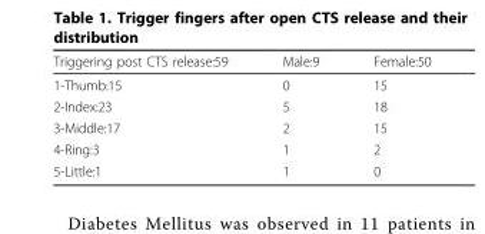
<table><thead><tr><td>Triggering post CTS release:59</td><td>Male:9</td><td>Female:50</td></tr></thead><tbody><tr><td>1-Thumb:15</td><td>0</td><td>15</td></tr><tr><td>2-Index:23</td><td>5</td><td>18</td></tr><tr><td>3-Middle:17</td><td>2</td><td>15</td></tr><tr><td>4-Ring:3</td><td>1</td><td>2</td></tr><tr><td>5-Little:1</td><td>1</td><td>0</td></tr></tbody></table>